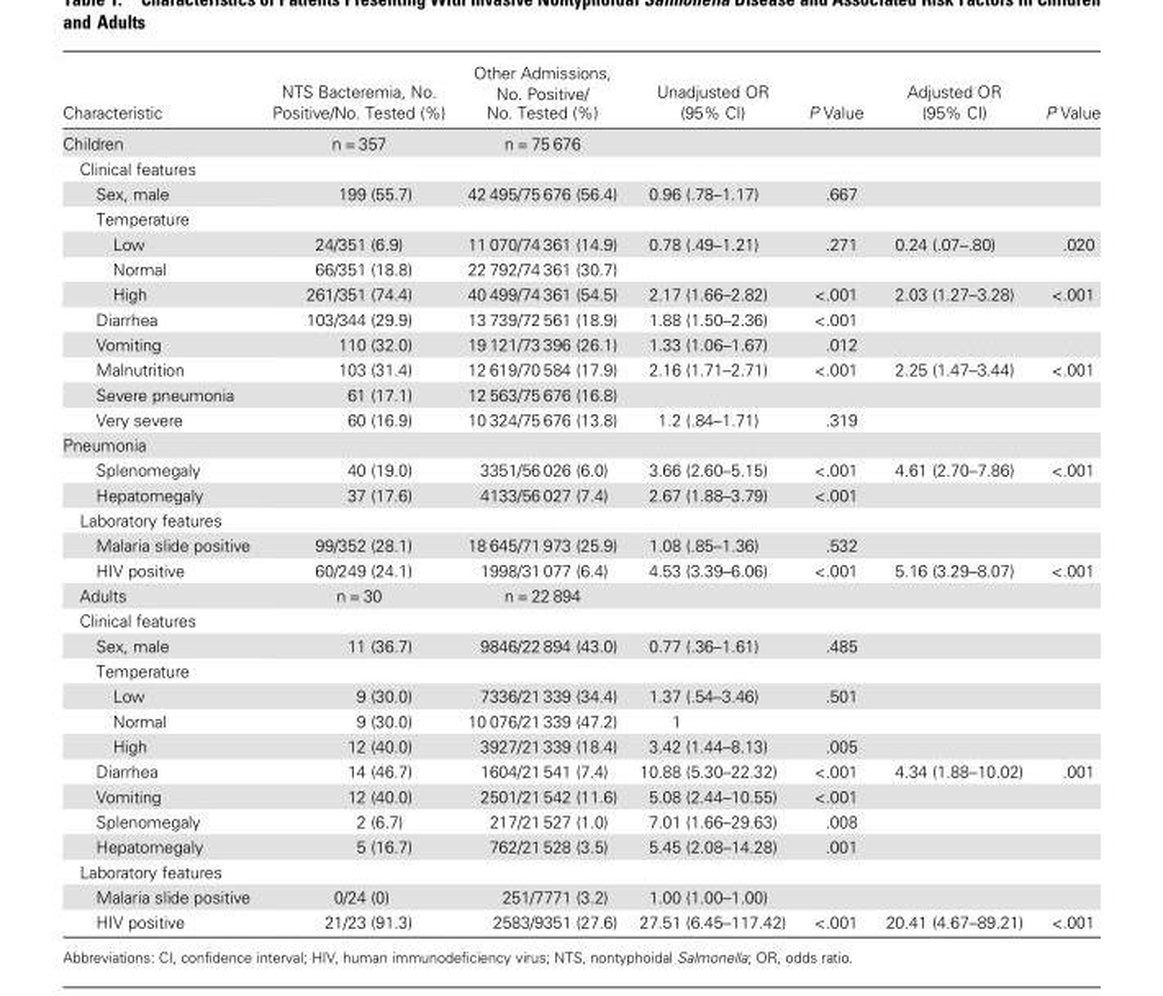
<table><thead><tr><td>Characteristic</td><td>NTS Bacteremia, No. Positive/No. Tested (%)</td><td>Other Admissions, No. Positive/ No. Tested (%)</td><td>Unadjusted OR (95% CI)</td><td>P Value</td><td>Adjusted OR (95% CI)</td><td>P Value</td></tr></thead><tbody><tr><td>Children</td><td>n = 357</td><td>n = 75 676</td><td></td><td></td><td></td><td></td></tr><tr><td colspan="7">Clinical features</td></tr><tr><td>Sex, male</td><td>199 (55.7)</td><td>42 495/75 676 (56.4)</td><td>0.96 (.78–1.17)</td><td>.667</td><td></td><td></td></tr><tr><td colspan="7">Temperature</td></tr><tr><td>Low</td><td>24/351 (6.9)</td><td>11 070/74 361 (14.9)</td><td>0.78 (.49–1.21)</td><td>.271</td><td>0.24 (.07–.80)</td><td>.020</td></tr><tr><td>Normal</td><td>66/351 (18.8)</td><td>22 792/74 361 (30.7)</td><td></td><td></td><td></td><td></td></tr><tr><td>High</td><td>261/351 (74.4)</td><td>40 499/74 361 (54.5)</td><td>2.17 (1.66–2.82)</td><td>&lt;.001</td><td>2.03 (1.27–3.28)</td><td>&lt;.001</td></tr><tr><td>Diarrhea</td><td>103/344 (29.9)</td><td>13 739/72 561 (18.9)</td><td>1.88 (1.50–2.36)</td><td>&lt;.001</td><td></td><td></td></tr><tr><td>Vomiting</td><td>110 (32.0)</td><td>19 121/73 396 (26.1)</td><td>1.33 (1.06–1.67)</td><td>.012</td><td></td><td></td></tr><tr><td>Malnutrition</td><td>103 (31.4)</td><td>12 619/70 584 (17.9)</td><td>2.16 (1.71–2.71)</td><td>&lt;.001</td><td>2.25 (1.47–3.44)</td><td>&lt;.001</td></tr><tr><td>Severe pneumonia</td><td>61 (17.1)</td><td>12 563/75 676 (16.8)</td><td></td><td></td><td></td><td></td></tr><tr><td>Very severe</td><td>60 (16.9)</td><td>10 324/75 676 (13.8)</td><td>1.2 (.84–1.71)</td><td>.319</td><td></td><td></td></tr><tr><td colspan="7">Pneumonia</td></tr><tr><td>Splenomegaly</td><td>40 (19.0)</td><td>3351/56 026 (6.0)</td><td>3.66 (2.60–5.15)</td><td>&lt;.001</td><td>4.61 (2.70–7.86)</td><td>&lt;.001</td></tr><tr><td>Hepatomegaly</td><td>37 (17.6)</td><td>4133/56 027 (7.4)</td><td>2.67 (1.88–3.79)</td><td>&lt;.001</td><td></td><td></td></tr><tr><td colspan="7">Laboratory features</td></tr><tr><td>Malaria slide positive</td><td>99/352 (28.1)</td><td>18 645/71 973 (25.9)</td><td>1.08 (.85–1.36)</td><td>.532</td><td></td><td></td></tr><tr><td>HIV positive</td><td>60/249 (24.1)</td><td>1998/31 077 (6.4)</td><td>4.53 (3.39–6.06)</td><td>&lt;.001</td><td>5.16 (3.29–8.07)</td><td>&lt;.001</td></tr><tr><td>Adults</td><td>n = 30</td><td>n = 22 894</td><td></td><td></td><td></td><td></td></tr><tr><td colspan="7">Clinical features</td></tr><tr><td>Sex, male</td><td>11 (36.7)</td><td>9846/22 894 (43.0)</td><td>0.77 (.36–1.61)</td><td>.485</td><td></td><td></td></tr><tr><td colspan="7">Temperature</td></tr><tr><td>Low</td><td>9 (30.0)</td><td>7336/21 339 (34.4)</td><td>1.37 (.54–3.46)</td><td>.501</td><td></td><td></td></tr><tr><td>Normal</td><td>9 (30.0)</td><td>10 076/21 339 (47.2)</td><td>1</td><td></td><td></td><td></td></tr><tr><td>High</td><td>12 (40.0)</td><td>3927/21 339 (18.4)</td><td>3.42 (1.44–8.13)</td><td>.005</td><td></td><td></td></tr><tr><td>Diarrhea</td><td>14 (46.7)</td><td>1604/21 541 (7.4)</td><td>10.88 (5.30–22.32)</td><td>&lt;.001</td><td>4.34 (1.88–10.02)</td><td>.001</td></tr><tr><td>Vomiting</td><td>12 (40.0)</td><td>2501/21 542 (11.6)</td><td>5.08 (2.44–10.55)</td><td>&lt;.001</td><td></td><td></td></tr><tr><td>Splenomegaly</td><td>2 (6.7)</td><td>217/21 527 (1.0)</td><td>7.01 (1.66–29.63)</td><td>.008</td><td></td><td></td></tr><tr><td>Hepatomegaly</td><td>5 (16.7)</td><td>762/21 528 (3.5)</td><td>5.45 (2.08–14.28)</td><td>.001</td><td></td><td></td></tr><tr><td colspan="7">Laboratory features</td></tr><tr><td>Malaria slide positive</td><td>0/24 (0)</td><td>251/7771 (3.2)</td><td>1.00 (1.00–1.00)</td><td></td><td></td><td></td></tr><tr><td>HIV positive</td><td>21/23 (91.3)</td><td>2583/9351 (27.6)</td><td>27.51 (6.45–117.42)</td><td>&lt;.001</td><td>20.41 (4.67–89.21)</td><td>&lt;.001</td></tr></tbody></table>